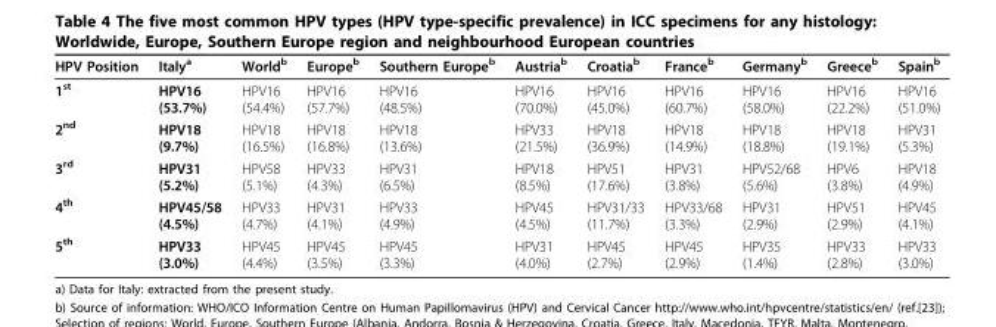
<table><thead><tr><td>HPV Position</td><td>Italy<sup>a</sup></td><td>World<sup>b</sup></td><td>Europe<sup>b</sup></td><td>Southern Europe<sup>b</sup></td><td>Austria<sup>b</sup></td><td>Croatia<sup>b</sup></td><td>France<sup>b</sup></td><td>Germany<sup>b</sup></td><td>Greece<sup>b</sup></td><td>Spain<sup>b</sup></td></tr></thead><tbody><tr><td>1<sup>st</sup></td><td>HPV16 (53.7%)</td><td>HPV16 (54.4%)</td><td>HPV16 (57.7%)</td><td>HPV16 (48.5%)</td><td>HPV16 (70.0%)</td><td>HPV16 (45.0%)</td><td>HPV16 (60.7%)</td><td>HPV16 (58.0%)</td><td>HPV16 (22.2%)</td><td>HPV16 (51.0%)</td></tr><tr><td>2<sup>nd</sup></td><td>HPV18 (9.7%)</td><td>HPV18 (16.5%)</td><td>HPV18 (16.8%)</td><td>HPV18 (13.6%)</td><td>HPV33 (21.5%)</td><td>HPV18 (36.9%)</td><td>HPV18 (14.9%)</td><td>HPV18 (18.8%)</td><td>HPV18 (19.1%)</td><td>HPV31 (5.3%)</td></tr><tr><td>3<sup>rd</sup></td><td>HPV31 (5.2%)</td><td>HPV58 (5.1%)</td><td>HPV33 (4.3%)</td><td>HPV31 (6.5%)</td><td>HPV18 (8.5%)</td><td>HPV51 (17.6%)</td><td>HPV31 (3.8%)</td><td>HPV52/68 (5.6%)</td><td>HPV6 (3.8%)</td><td>HPV18 (4.9%)</td></tr><tr><td>4<sup>th</sup></td><td>HPV45/58 (4.5%)</td><td>HPV33 (4.7%)</td><td>HPV31 (4.1%)</td><td>HPV33 (4.9%)</td><td>HPV45 (4.5%)</td><td>HPV31/33 (11.7%)</td><td>HPV33/68 (3.3%)</td><td>HPV31 (2.9%)</td><td>HPV51 (2.9%)</td><td>HPV45 (4.1%)</td></tr><tr><td>5<sup>th</sup></td><td>HPV33 (3.0%)</td><td>HPV45 (4.4%)</td><td>HPV45 (3.5%)</td><td>HPV45 (3.3%)</td><td>HPV31 (4.0%)</td><td>HPV45 (2.7%)</td><td>HPV45 (2.9%)</td><td>HPV35 (1.4%)</td><td>HPV33 (2.8%)</td><td>HPV33 (3.0%)</td></tr></tbody></table>